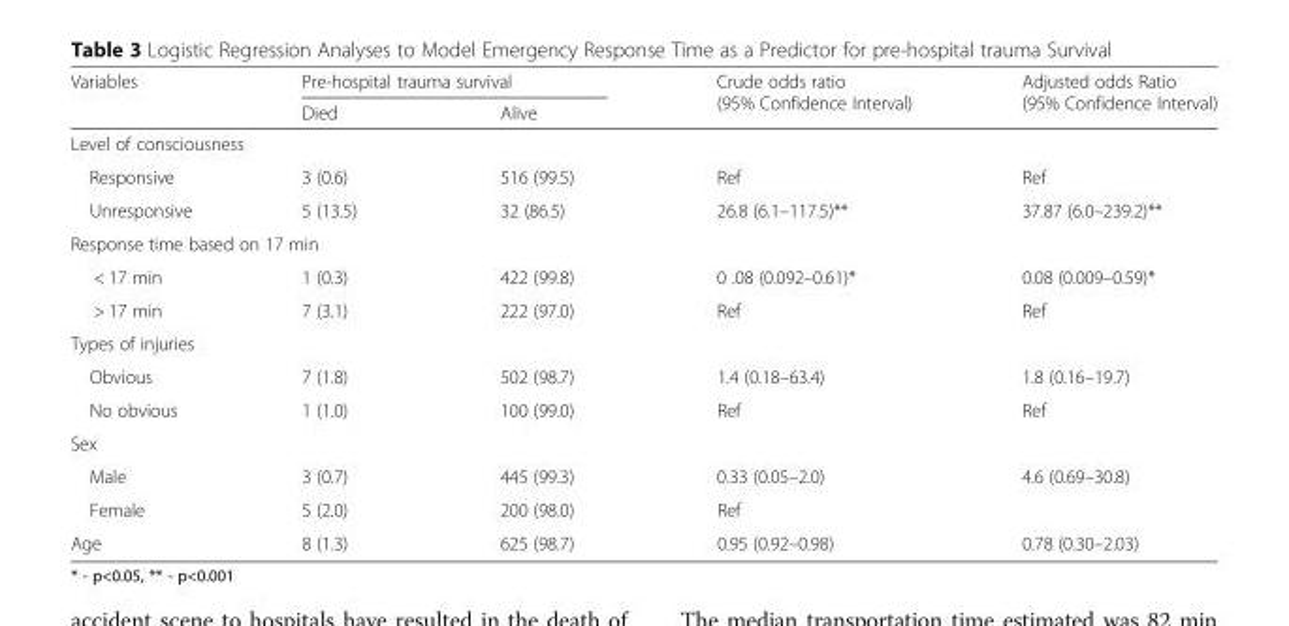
<table><thead><tr><td rowspan="2">Variables</td><td colspan="2">Pre-hospital trauma survival</td><td rowspan="2">Crude odds ratio (95% Confidence Interval)</td><td rowspan="2">Adjusted odds Ratio (95% Confidence Interval)</td></tr><tr><td>Died</td><td>Alive</td></tr></thead><tbody><tr><td colspan="5">Level of consciousness</td></tr><tr><td>Responsive</td><td>3 (0.6)</td><td>516 (99.5)</td><td>Ref</td><td>Ref</td></tr><tr><td>Unresponsive</td><td>5 (13.5)</td><td>32 (86.5)</td><td>26.8 (6.1–117.5)**</td><td>37.87 (6.0–239.2)**</td></tr><tr><td colspan="5">Response time based on 17 min</td></tr><tr><td>&lt; 17 min</td><td>1 (0.3)</td><td>422 (99.8)</td><td>0 .08 (0.092–0.61)*</td><td>0.08 (0.009–0.59)*</td></tr><tr><td>&gt; 17 min</td><td>7 (3.1)</td><td>222 (97.0)</td><td>Ref</td><td>Ref</td></tr><tr><td colspan="5">Types of injuries</td></tr><tr><td>Obvious</td><td>7 (1.8)</td><td>502 (98.7)</td><td>1.4 (0.18–63.4)</td><td>1.8 (0.16–19.7)</td></tr><tr><td>No obvious</td><td>1 (1.0)</td><td>100 (99.0)</td><td>Ref</td><td>Ref</td></tr><tr><td colspan="5">Sex</td></tr><tr><td>Male</td><td>3 (0.7)</td><td>445 (99.3)</td><td>0.33 (0.05–2.0)</td><td>4.6 (0.69–30.8)</td></tr><tr><td>Female</td><td>5 (2.0)</td><td>200 (98.0)</td><td>Ref</td><td></td></tr><tr><td>Age</td><td>8 (1.3)</td><td>625 (98.7)</td><td>0.95 (0.92–0.98)</td><td>0.78 (0.30–2.03)</td></tr></tbody></table>